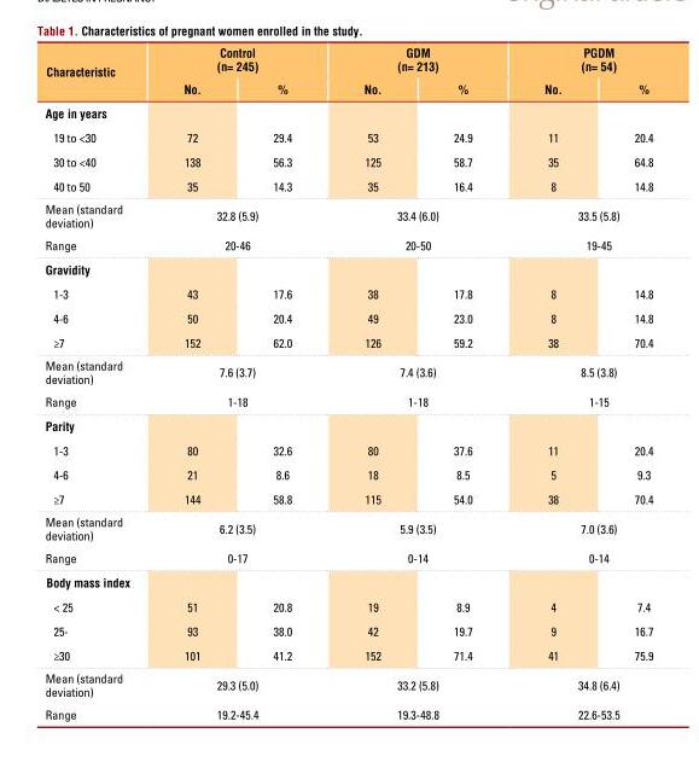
<table><thead><tr><td rowspan="2">Characteristic</td><td colspan="2">Control (n= 245)</td><td colspan="2">GDM (n= 213)</td><td colspan="2">PGDM (n= 54)</td></tr><tr><td>No.</td><td>%</td><td>No.</td><td>%</td><td>No.</td><td>%</td></tr></thead><tbody><tr><td colspan="7">Age in years</td></tr><tr><td>19 to &lt;30</td><td>72</td><td>29.4</td><td>53</td><td>24.9</td><td>11</td><td>20.4</td></tr><tr><td>30 to &lt;40</td><td>138</td><td>56.3</td><td>125</td><td>58.7</td><td>35</td><td>64.8</td></tr><tr><td>40 to 50</td><td>35</td><td>14.3</td><td>35</td><td>16.4</td><td>8</td><td>14.8</td></tr><tr><td>Mean (standard deviation)</td><td colspan="2">32.8 (5.9)</td><td colspan="2">33.4 (6.0)</td><td colspan="2">33.5 (5.8)</td></tr><tr><td>Range</td><td colspan="2">20-46</td><td colspan="2">20-50</td><td colspan="2">19-45</td></tr><tr><td colspan="7">Gravidity</td></tr><tr><td>1-3</td><td>43</td><td>17.6</td><td>38</td><td>17.8</td><td>8</td><td>14.8</td></tr><tr><td>4-6</td><td>50</td><td>20.4</td><td>49</td><td>23.0</td><td>8</td><td>14.8</td></tr><tr><td>≥7</td><td>152</td><td>62.0</td><td>126</td><td>59.2</td><td>38</td><td>70.4</td></tr><tr><td>Mean (standard deviation)</td><td colspan="2">7.6 (3.7)</td><td colspan="2">7.4 (3.6)</td><td colspan="2">8.5 (3.8)</td></tr><tr><td>Range</td><td colspan="2">1-18</td><td colspan="2">1-18</td><td colspan="2">1-15</td></tr><tr><td colspan="7">Parity</td></tr><tr><td>1-3</td><td>80</td><td>32.6</td><td>80</td><td>37.6</td><td>11</td><td>20.4</td></tr><tr><td>4-6</td><td>21</td><td>8.6</td><td>18</td><td>8.5</td><td>5</td><td>9.3</td></tr><tr><td>≥7</td><td>144</td><td>58.8</td><td>115</td><td>54.0</td><td>38</td><td>70.4</td></tr><tr><td>Mean (standard deviation)</td><td colspan="2">6.2 (3.5)</td><td colspan="2">5.9 (3.5)</td><td colspan="2">7.0 (3.6)</td></tr><tr><td>Range</td><td colspan="2">0-17</td><td colspan="2">0-14</td><td colspan="2">0-14</td></tr><tr><td colspan="7">Body mass index</td></tr><tr><td>&lt; 25</td><td>51</td><td>20.8</td><td>19</td><td>8.9</td><td>4</td><td>7.4</td></tr><tr><td>25-</td><td>93</td><td>38.0</td><td>42</td><td>19.7</td><td>9</td><td>16.7</td></tr><tr><td>≥30</td><td>101</td><td>41.2</td><td>152</td><td>71.4</td><td>41</td><td>75.9</td></tr><tr><td>Mean (standard deviation)</td><td colspan="2">29.3 (5.0)</td><td colspan="2">33.2 (5.8)</td><td colspan="2">34.8 (6.4)</td></tr><tr><td>Range</td><td colspan="2">19.2-45.4</td><td colspan="2">19.3-48.8</td><td colspan="2">22.6-53.5</td></tr></tbody></table>